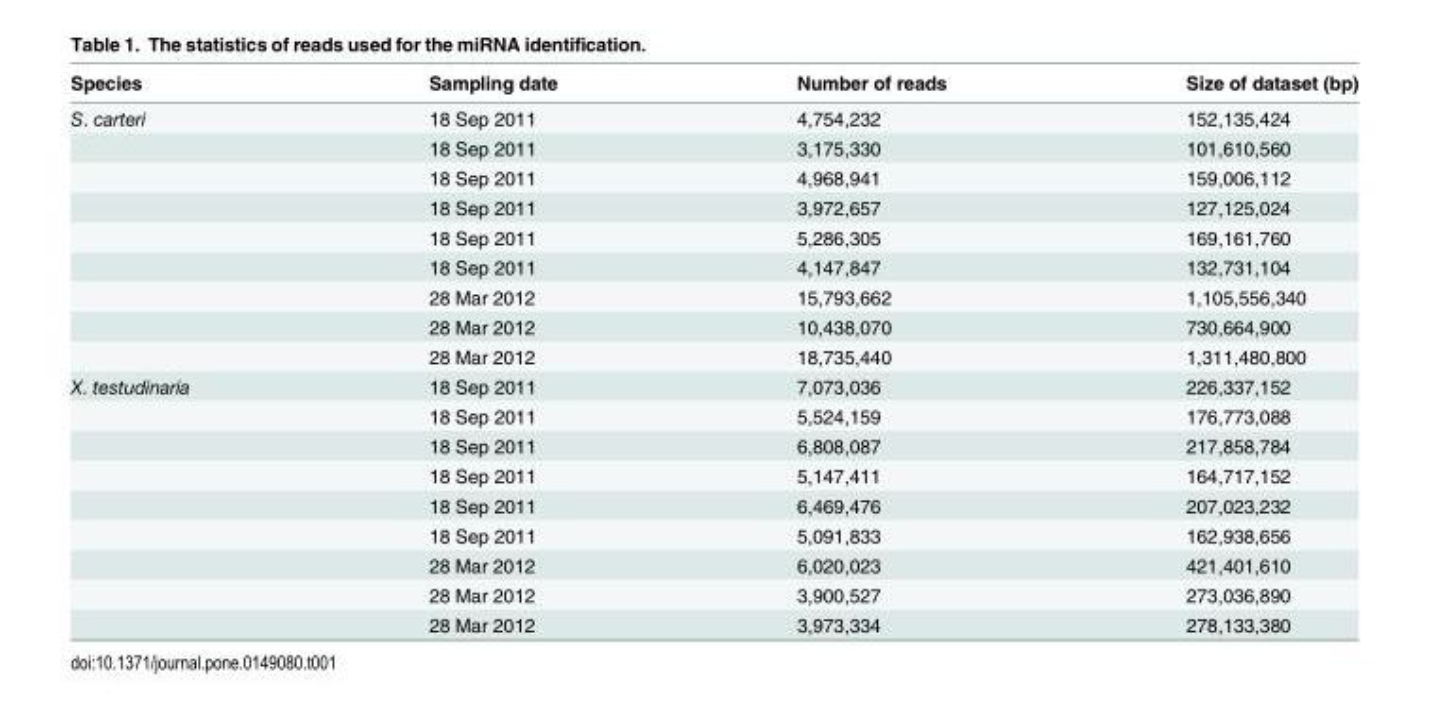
<table><thead><tr><td>Species</td><td>Sampling date</td><td>Number of reads</td><td>Size of dataset (bp)</td></tr></thead><tbody><tr><td rowspan="9">S. carteri</td><td>18 Sep 2011</td><td>4,754,232</td><td>152,135,424</td></tr><tr><td>18 Sep 2011</td><td>3,175,330</td><td>101,610,560</td></tr><tr><td>18 Sep 2011</td><td>4,968,941</td><td>159,006,112</td></tr><tr><td>18 Sep 2011</td><td>3,972,657</td><td>127,125,024</td></tr><tr><td>18 Sep 2011</td><td>5,286,305</td><td>169,161,760</td></tr><tr><td>18 Sep 2011</td><td>4,147,847</td><td>132,731,104</td></tr><tr><td>28 Mar 2012</td><td>15,793,662</td><td>1,105,556,340</td></tr><tr><td>28 Mar 2012</td><td>10,438,070</td><td>730,664,900</td></tr><tr><td>28 Mar 2012</td><td>18,735,440</td><td>1,311,480,800</td></tr><tr><td rowspan="9">X. testudinaria</td><td>18 Sep 2011</td><td>7,073,036</td><td>226,337,152</td></tr><tr><td>18 Sep 2011</td><td>5,524,159</td><td>176,773,088</td></tr><tr><td>18 Sep 2011</td><td>6,808,087</td><td>217,858,784</td></tr><tr><td>18 Sep 2011</td><td>5,147,411</td><td>164,717,152</td></tr><tr><td>18 Sep 2011</td><td>6,469,476</td><td>207,023,232</td></tr><tr><td>18 Sep 2011</td><td>5,091,833</td><td>162,938,656</td></tr><tr><td>28 Mar 2012</td><td>6,020,023</td><td>421,401,610</td></tr><tr><td>28 Mar 2012</td><td>3,900,527</td><td>273,036,890</td></tr><tr><td>28 Mar 2012</td><td>3,973,334</td><td>278,133,380</td></tr></tbody></table>